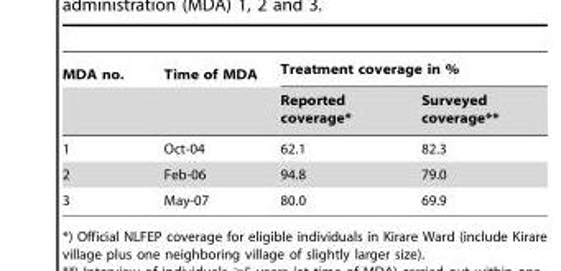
<table><thead><tr><td rowspan="2">MDA no.</td><td rowspan="2">Time of MDA</td><td colspan="2">Treatment coverage in %</td></tr><tr><td>Reported coverage*</td><td>Surveyed coverage**</td></tr></thead><tbody><tr><td>1</td><td>Oct-04</td><td>62.1</td><td>82.3</td></tr><tr><td>2</td><td>Feb-06</td><td>94.8</td><td>79.0</td></tr><tr><td>3</td><td>May-07</td><td>80.0</td><td>69.9</td></tr></tbody></table>